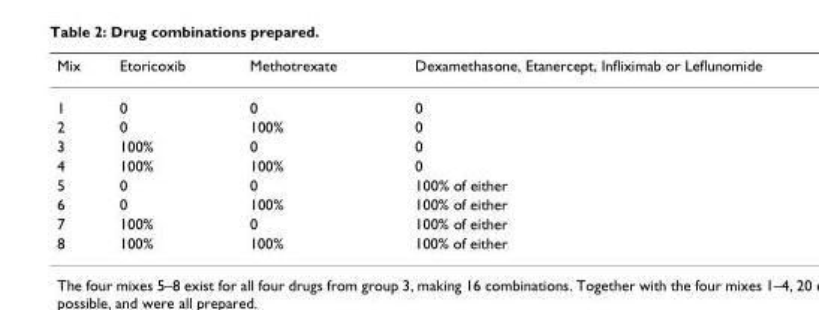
<table><thead><tr><td>Mix</td><td>Etoricoxib</td><td>Methotrexate</td><td>Dexamethasone, Etanercept, Infliximab or Leflunomide</td></tr></thead><tbody><tr><td>1</td><td>0</td><td>0</td><td>0</td></tr><tr><td>2</td><td>0</td><td>100%</td><td>0</td></tr><tr><td>3</td><td>100%</td><td>0</td><td>0</td></tr><tr><td>4</td><td>100%</td><td>100%</td><td>0</td></tr><tr><td>5</td><td>0</td><td>0</td><td>100% of either</td></tr><tr><td>6</td><td>0</td><td>100%</td><td>100% of either</td></tr><tr><td>7</td><td>100%</td><td>0</td><td>100% of either</td></tr><tr><td>8</td><td>100%</td><td>100%</td><td>100% of either</td></tr></tbody></table>